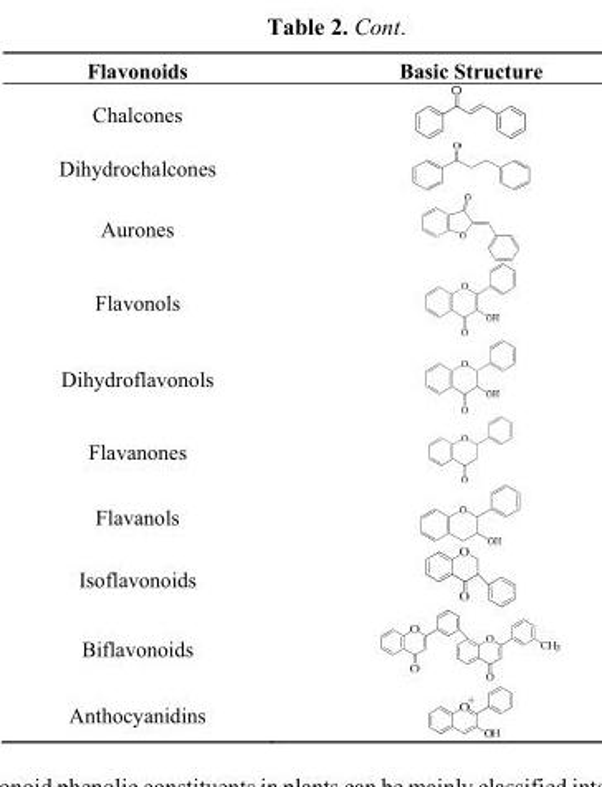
<table><thead><tr><td>Flavonoids</td><td>Basic Structure</td></tr></thead><tbody><tr><td colspan="2">Chalcones</td></tr><tr><td colspan="2">Dihydrochalcones</td></tr><tr><td colspan="2">Aurones</td></tr><tr><td colspan="2">Flavonols</td></tr><tr><td colspan="2">Dihydroflavonols</td></tr><tr><td colspan="2">Flavanones</td></tr><tr><td colspan="2">Flavanols</td></tr><tr><td colspan="2">Isoflavonoids</td></tr><tr><td colspan="2">Biflavonoids</td></tr><tr><td>Anthocyanidins</td><td></td></tr></tbody></table>